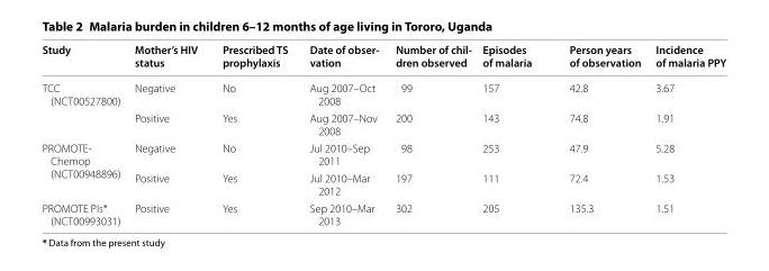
<table><thead><tr><td>Study</td><td>Mother’s HIV status</td><td>Prescribed TS prophylaxis</td><td>Date of obser‑ vation</td><td>Number of chil‑ dren observed</td><td>Episodes of malaria</td><td>Person years of observation</td><td>Incidence of malaria PPY</td></tr></thead><tbody><tr><td rowspan="2">TCC (NCT00527800)</td><td>Negative</td><td>No</td><td>Aug 2007–Oct 2008</td><td>99</td><td>157</td><td>42.8</td><td>3.67</td></tr><tr><td>Positive</td><td>Yes</td><td>Aug 2007–Nov 2008</td><td>200</td><td>143</td><td>74.8</td><td>1.91</td></tr><tr><td rowspan="2">PROMOTE- Chemop (NCT00948896)</td><td>Negative</td><td>No</td><td>Jul 2010–Sep 2011</td><td>98</td><td>253</td><td>47.9</td><td>5.28</td></tr><tr><td>Positive</td><td>Yes</td><td>Jul 2010–Mar 2012</td><td>197</td><td>111</td><td>72.4</td><td>1.53</td></tr><tr><td>PROMOTE PIs* (NCT00993031)</td><td>Positive</td><td>Yes</td><td>Sep 2010–Mar 2013</td><td>302</td><td>205</td><td>135.3</td><td>1.51</td></tr></tbody></table>